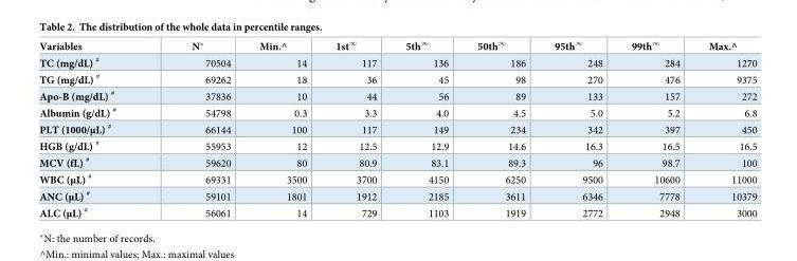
<table><thead><tr><td>Variables</td><td>N*</td><td>Min.^</td><td>1st<sup>∞</sup></td><td>5th<sup>∞</sup></td><td>50th<sup>∞</sup></td><td>95th<sup>∞</sup></td><td>99th<sup>∞</sup></td><td>Max.^</td></tr></thead><tbody><tr><td>TC (mg/dL) <sup>#</sup></td><td>70504</td><td>14</td><td>117</td><td>136</td><td>186</td><td>248</td><td>284</td><td>1270</td></tr><tr><td>TG (mg/dL) <sup>#</sup></td><td>69262</td><td>18</td><td>36</td><td>45</td><td>98</td><td>270</td><td>476</td><td>9375</td></tr><tr><td>Apo-B (mg/dL) <sup>#</sup></td><td>37836</td><td>10</td><td>44</td><td>56</td><td>89</td><td>133</td><td>157</td><td>272</td></tr><tr><td>Albumin (g/dL) <sup>#</sup></td><td>54798</td><td>0.3</td><td>3.3</td><td>4.0</td><td>4.5</td><td>5.0</td><td>5.2</td><td>6.8</td></tr><tr><td>PLT (1000/μL) <sup>#</sup></td><td>66144</td><td>100</td><td>117</td><td>149</td><td>234</td><td>342</td><td>397</td><td>450</td></tr><tr><td>HGB (g/dL) <sup>#</sup></td><td>55953</td><td>12</td><td>12.5</td><td>12.9</td><td>14.6</td><td>16.3</td><td>16.5</td><td>16.5</td></tr><tr><td>MCV (fL) <sup>#</sup></td><td>59620</td><td>80</td><td>80.9</td><td>83.1</td><td>89.3</td><td>96</td><td>98.7</td><td>100</td></tr><tr><td>WBC (μL) <sup>#</sup></td><td>69331</td><td>3500</td><td>3700</td><td>4150</td><td>6250</td><td>9500</td><td>10600</td><td>11000</td></tr><tr><td>ANC (μL) <sup>#</sup></td><td>59101</td><td>1801</td><td>1912</td><td>2185</td><td>3611</td><td>6346</td><td>7778</td><td>10379</td></tr><tr><td>ALC (μL) <sup>#</sup></td><td>56061</td><td>14</td><td>729</td><td>1103</td><td>1919</td><td>2772</td><td>2948</td><td>3000</td></tr></tbody></table>